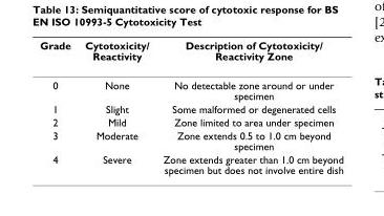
<table><thead><tr><td>Grade</td><td>Cytotoxicity/ Reactivity</td><td>Description of Cytotoxicity/ Reactivity Zone</td></tr></thead><tbody><tr><td>0</td><td>None</td><td>No detectable zone around or under specimen</td></tr><tr><td>1</td><td>Slight</td><td>Some malformed or degenerated cells</td></tr><tr><td>2</td><td>Mild</td><td>Zone limited to area under specimen</td></tr><tr><td>3</td><td>Moderate</td><td>Zone extends 0.5 to 1.0 cm beyond specimen</td></tr><tr><td>4</td><td>Severe</td><td>Zone extends greater than 1.0 cm beyond specimen but does not involve entire dish</td></tr></tbody></table>